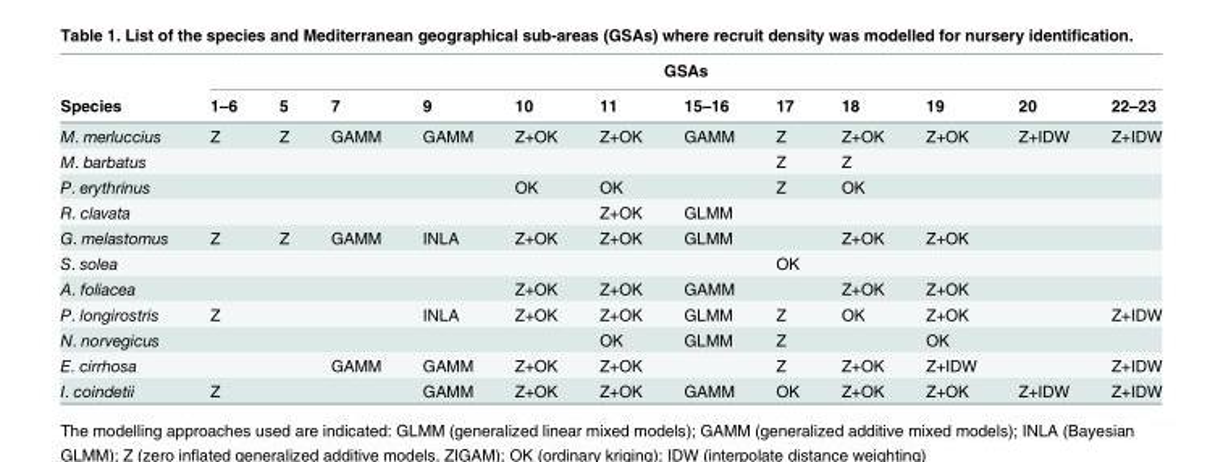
<table><thead><tr><td rowspan="2">Species</td><td colspan="12">GSAs</td></tr><tr><td>1–6</td><td>5</td><td>7</td><td>9</td><td>10</td><td>11</td><td>15–16</td><td>17</td><td>18</td><td>19</td><td>20</td><td>22–23</td></tr></thead><tbody><tr><td>M. merluccius</td><td>Z</td><td>Z</td><td>GAMM</td><td>GAMM</td><td>Z+OK</td><td>Z+OK</td><td>GAMM</td><td>Z</td><td>Z+OK</td><td>Z+OK</td><td>Z+IDW</td><td>Z+IDW</td></tr><tr><td>M. barbatus</td><td></td><td></td><td></td><td></td><td></td><td></td><td></td><td>Z</td><td>Z</td><td></td><td></td><td></td></tr><tr><td>P. erythrinus</td><td></td><td></td><td></td><td></td><td>OK</td><td>OK</td><td></td><td>Z</td><td>OK</td><td></td><td></td><td></td></tr><tr><td>R. clavata</td><td></td><td></td><td></td><td></td><td></td><td>Z+OK</td><td>GLMM</td><td></td><td></td><td></td><td></td><td></td></tr><tr><td>G. melastomus</td><td>Z</td><td>Z</td><td>GAMM</td><td>INLA</td><td>Z+OK</td><td>Z+OK</td><td>GLMM</td><td></td><td>Z+OK</td><td>Z+OK</td><td></td><td></td></tr><tr><td>S. solea</td><td></td><td></td><td></td><td></td><td></td><td></td><td></td><td>OK</td><td></td><td></td><td></td><td></td></tr><tr><td>A. foliacea</td><td></td><td></td><td></td><td></td><td>Z+OK</td><td>Z+OK</td><td>GAMM</td><td></td><td>Z+OK</td><td>Z+OK</td><td></td><td></td></tr><tr><td>P. longirostris</td><td>Z</td><td></td><td></td><td>INLA</td><td>Z+OK</td><td>Z+OK</td><td>GLMM</td><td>Z</td><td>OK</td><td>Z+OK</td><td></td><td>Z+IDW</td></tr><tr><td>N. norvegicus</td><td></td><td></td><td></td><td></td><td></td><td>OK</td><td>GLMM</td><td>Z</td><td></td><td>OK</td><td></td><td></td></tr><tr><td>E. cirrhosa</td><td></td><td></td><td>GAMM</td><td>GAMM</td><td>Z+OK</td><td>Z+OK</td><td></td><td>Z</td><td>Z+OK</td><td>Z+IDW</td><td></td><td>Z+IDW</td></tr><tr><td>I. coindetii</td><td>Z</td><td></td><td></td><td>GAMM</td><td>Z+OK</td><td>Z+OK</td><td>GAMM</td><td>OK</td><td>Z+OK</td><td>Z+OK</td><td>Z+IDW</td><td>Z+IDW</td></tr></tbody></table>